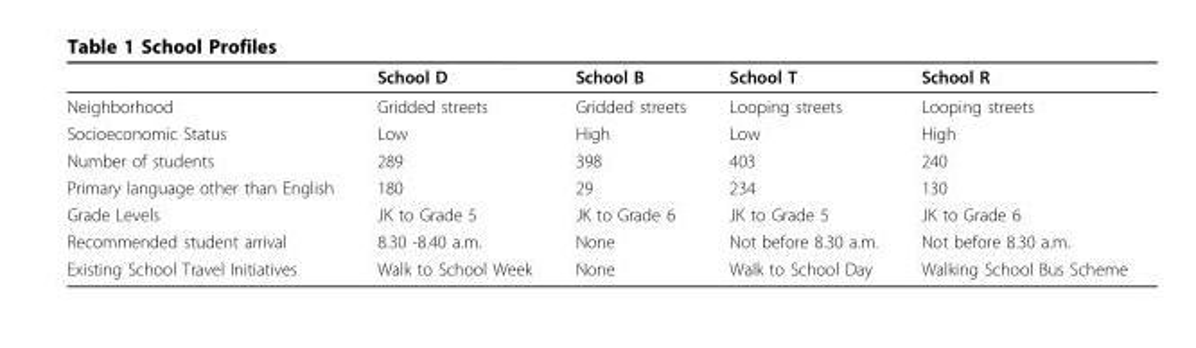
<table><thead><tr><td></td><td>School D</td><td>School B</td><td>School T</td><td>School R</td></tr></thead><tbody><tr><td>Neighborhood</td><td>Gridded streets</td><td>Gridded streets</td><td>Looping streets</td><td>Looping streets</td></tr><tr><td>Socioeconomic Status</td><td>Low</td><td>High</td><td>Low</td><td>High</td></tr><tr><td>Number of students</td><td>289</td><td>398</td><td>403</td><td>240</td></tr><tr><td>Primary language other than English</td><td>180</td><td>29</td><td>234</td><td>130</td></tr><tr><td>Grade Levels</td><td>JK to Grade 5</td><td>JK to Grade 6</td><td>JK to Grade 5</td><td>JK to Grade 6</td></tr><tr><td>Recommended student arrival</td><td>8.30 -8.40 a.m.</td><td>None</td><td>Not before 8.30 a.m.</td><td>Not before 8.30 a.m.</td></tr><tr><td>Existing School Travel Initiatives</td><td>Walk to School Week</td><td>None</td><td>Walk to School Day</td><td>Walking School Bus Scheme</td></tr></tbody></table>